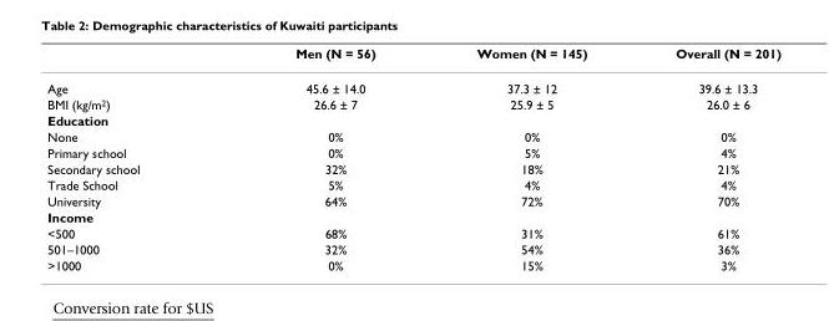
<table><thead><tr><td></td><td>Men (N = 56)</td><td>Women (N = 145)</td><td>Overall (N = 201)</td></tr></thead><tbody><tr><td>Age</td><td>45.6 ± 14.0</td><td>37.3 ± 12</td><td>39.6 ± 13.3</td></tr><tr><td>BMI (kg/m<sup>2</sup>)</td><td>26.6 ± 7</td><td>25.9 ± 5</td><td>26.0 ± 6</td></tr><tr><td colspan="4">Education</td></tr><tr><td>None</td><td>0%</td><td>0%</td><td>0%</td></tr><tr><td>Primary school</td><td>0%</td><td>5%</td><td>4%</td></tr><tr><td>Secondary school</td><td>32%</td><td>18%</td><td>21%</td></tr><tr><td>Trade School</td><td>5%</td><td>4%</td><td>4%</td></tr><tr><td>University</td><td>64%</td><td>72%</td><td>70%</td></tr><tr><td colspan="4">Income</td></tr><tr><td>&lt;500</td><td>68%</td><td>31%</td><td>61%</td></tr><tr><td>501–1000</td><td>32%</td><td>54%</td><td>36%</td></tr><tr><td>&gt;1000</td><td>0%</td><td>15%</td><td>3%</td></tr></tbody></table>